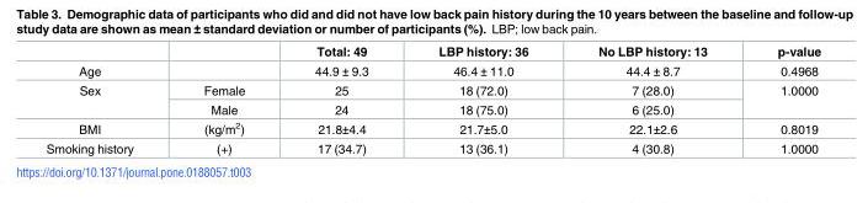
<table><thead><tr><td></td><td></td><td>Total: 49</td><td>LBP history: 36</td><td>No LBP history: 13</td><td>p-value</td></tr></thead><tbody><tr><td>Age</td><td></td><td>44.9 ± 9.3</td><td>46.4 ± 11.0</td><td>44.4 ± 8.7</td><td>0.4968</td></tr><tr><td rowspan="2">Sex</td><td>Female</td><td>25</td><td>18 (72.0)</td><td>7 (28.0)</td><td rowspan="2">1.0000</td></tr><tr><td>Male</td><td>24</td><td>18 (75.0)</td><td>6 (25.0)</td></tr><tr><td>BMI</td><td>(kg/m<sup>2</sup>)</td><td>21.8±4.4</td><td>21.7±5.0</td><td>22.1±2.6</td><td>0.8019</td></tr><tr><td>Smoking history</td><td>(+)</td><td>17 (34.7)</td><td>13 (36.1)</td><td>4 (30.8)</td><td>1.0000</td></tr></tbody></table>